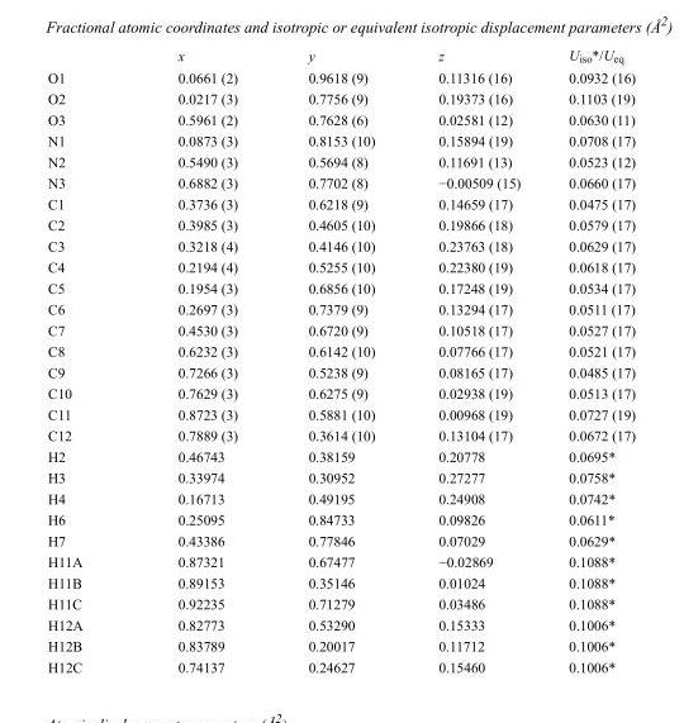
<table><thead><tr><td></td><td>x</td><td>y</td><td>z</td><td>U<sub>iso</sub>*/U<sub>eq</sub></td></tr></thead><tbody><tr><td>O1</td><td>0.0661 (2)</td><td>0.9618 (9)</td><td>0.11316 (16)</td><td>0.0932 (16)</td></tr><tr><td>O2</td><td>0.0217 (3)</td><td>0.7756 (9)</td><td>0.19373 (16)</td><td>0.1103 (19)</td></tr><tr><td>O3</td><td>0.5961 (2)</td><td>0.7628 (6)</td><td>0.02581 (12)</td><td>0.0630 (11)</td></tr><tr><td>N1</td><td>0.0873 (3)</td><td>0.8153 (10)</td><td>0.15894 (19)</td><td>0.0708 (17)</td></tr><tr><td>N2</td><td>0.5490 (3)</td><td>0.5694 (8)</td><td>0.11691 (13)</td><td>0.0523 (12)</td></tr><tr><td>N3</td><td>0.6882 (3)</td><td>0.7702 (8)</td><td>−0.00509 (15)</td><td>0.0660 (17)</td></tr><tr><td>C1</td><td>0.3736 (3)</td><td>0.6218 (9)</td><td>0.14659 (17)</td><td>0.0475 (17)</td></tr><tr><td>C2</td><td>0.3985 (3)</td><td>0.4605 (10)</td><td>0.19866 (18)</td><td>0.0579 (17)</td></tr><tr><td>C3</td><td>0.3218 (4)</td><td>0.4146 (10)</td><td>0.23763 (18)</td><td>0.0629 (17)</td></tr><tr><td>C4</td><td>0.2194 (4)</td><td>0.5255 (10)</td><td>0.22380 (19)</td><td>0.0618 (17)</td></tr><tr><td>C5</td><td>0.1954 (3)</td><td>0.6856 (10)</td><td>0.17248 (19)</td><td>0.0534 (17)</td></tr><tr><td>C6</td><td>0.2697 (3)</td><td>0.7379 (9)</td><td>0.13294 (17)</td><td>0.0511 (17)</td></tr><tr><td>C7</td><td>0.4530 (3)</td><td>0.6720 (9)</td><td>0.10518 (17)</td><td>0.0527 (17)</td></tr><tr><td>C8</td><td>0.6232 (3)</td><td>0.6142 (10)</td><td>0.07766 (17)</td><td>0.0521 (17)</td></tr><tr><td>C9</td><td>0.7266 (3)</td><td>0.5238 (9)</td><td>0.08165 (17)</td><td>0.0485 (17)</td></tr><tr><td>C10</td><td>0.7629 (3)</td><td>0.6275 (9)</td><td>0.02938 (19)</td><td>0.0513 (17)</td></tr><tr><td>C11</td><td>0.8723 (3)</td><td>0.5881 (10)</td><td>0.00968 (19)</td><td>0.0727 (19)</td></tr><tr><td>C12</td><td>0.7889 (3)</td><td>0.3614 (10)</td><td>0.13104 (17)</td><td>0.0672 (17)</td></tr><tr><td>H2</td><td>0.46743</td><td>0.38159</td><td>0.20778</td><td>0.0695*</td></tr><tr><td>H3</td><td>0.33974</td><td>0.30952</td><td>0.27277</td><td>0.0758*</td></tr><tr><td>H4</td><td>0.16713</td><td>0.49195</td><td>0.24908</td><td>0.0742*</td></tr><tr><td>H6</td><td>0.25095</td><td>0.84733</td><td>0.09826</td><td>0.0611*</td></tr><tr><td>H7</td><td>0.43386</td><td>0.77846</td><td>0.07029</td><td>0.0629*</td></tr><tr><td>H11A</td><td>0.87321</td><td>0.67477</td><td>−0.02869</td><td>0.1088*</td></tr><tr><td>H11B</td><td>0.89153</td><td>0.35146</td><td>0.01024</td><td>0.1088*</td></tr><tr><td>H11C</td><td>0.92235</td><td>0.71279</td><td>0.03486</td><td>0.1088*</td></tr><tr><td>H12A</td><td>0.82773</td><td>0.53290</td><td>0.15333</td><td>0.1006*</td></tr><tr><td>H12B</td><td>0.83789</td><td>0.20017</td><td>0.11712</td><td>0.1006*</td></tr><tr><td>H12C</td><td>0.74137</td><td>0.24627</td><td>0.15460</td><td>0.1006*</td></tr></tbody></table>